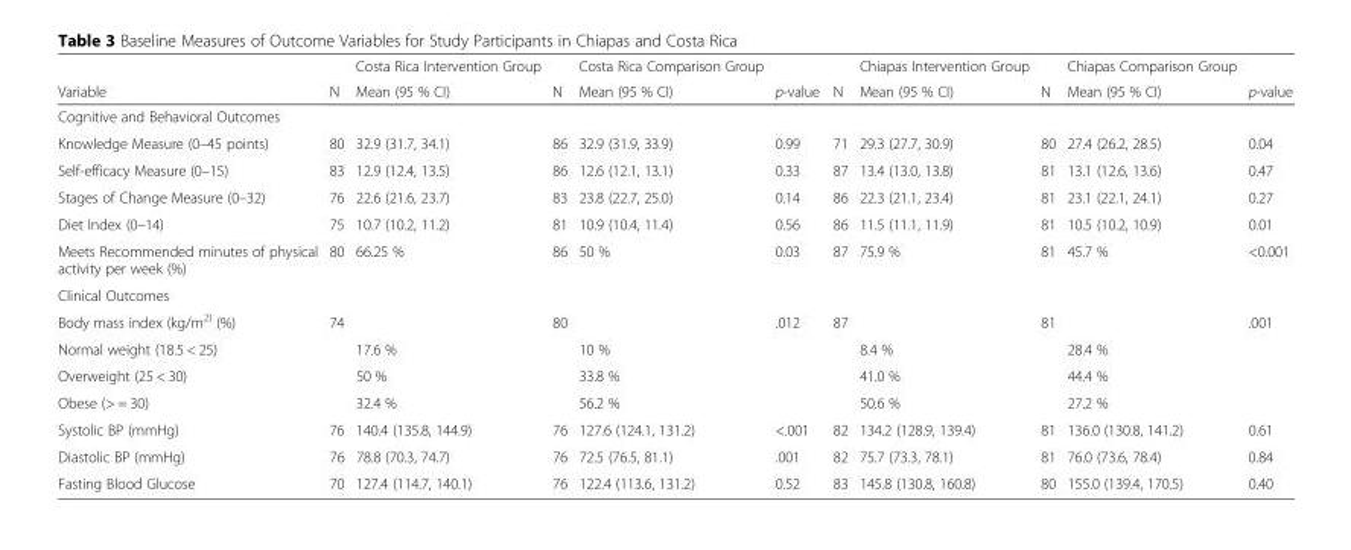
<table><thead><tr><td rowspan="2">Variable</td><td rowspan="2">N</td><td rowspan="2">Costa Rica Intervention Group Mean (95 % CI)</td><td rowspan="2">N</td><td rowspan="2">Costa Rica Comparison Group Mean (95 % CI)</td><td rowspan="2">p-value</td><td rowspan="2">N</td><td rowspan="2">Chiapas Intervention Group Mean (95 % CI)</td><td rowspan="2">N</td><td rowspan="2">Chiapas Comparison Group Mean (95 % CI)</td><td rowspan="2">p-value</td></tr><tr></tr></thead><tbody><tr><td colspan="11">Cognitive and Behavioral Outcomes</td></tr><tr><td>Knowledge Measure (0–45 points)</td><td>80</td><td>32.9 (31.7, 34.1)</td><td>86</td><td>32.9 (31.9, 33.9)</td><td>0.99</td><td>71</td><td>29.3 (27.7, 30.9)</td><td>80</td><td>27.4 (26.2, 28.5)</td><td>0.04</td></tr><tr><td>Self-efficacy Measure (0–15)</td><td>83</td><td>12.9 (12.4, 13.5)</td><td>86</td><td>12.6 (12.1, 13.1)</td><td>0.33</td><td>87</td><td>13.4 (13.0, 13.8)</td><td>81</td><td>13.1 (12.6, 13.6)</td><td>0.47</td></tr><tr><td>Stages of Change Measure (0–32)</td><td>76</td><td>22.6 (21.6, 23.7)</td><td>83</td><td>23.8 (22.7, 25.0)</td><td>0.14</td><td>86</td><td>22.3 (21.1, 23.4)</td><td>81</td><td>23.1 (22.1, 24.1)</td><td>0.27</td></tr><tr><td>Diet Index (0–14)</td><td>75</td><td>10.7 (10.2, 11.2)</td><td>81</td><td>10.9 (10.4, 11.4)</td><td>0.56</td><td>86</td><td>11.5 (11.1, 11.9)</td><td>81</td><td>10.5 (10.2, 10.9)</td><td>0.01</td></tr><tr><td>Meets Recommended minutes of physical activity per week (%)</td><td>80</td><td>66.25 %</td><td>86</td><td>50 %</td><td>0.03</td><td>87</td><td>75.9 %</td><td>81</td><td>45.7 %</td><td>&lt;0.001</td></tr><tr><td colspan="11">Clinical Outcomes</td></tr><tr><td>Body mass index (kg/m<sup>2)</sup> (%)</td><td>74</td><td></td><td>80</td><td></td><td>.012</td><td>87</td><td></td><td>81</td><td></td><td>.001</td></tr><tr><td>Normal weight (18.5 &lt; 25)</td><td></td><td>17.6 %</td><td></td><td>10 %</td><td></td><td></td><td>8.4 %</td><td></td><td>28.4 %</td><td></td></tr><tr><td>Overweight (25 &lt; 30)</td><td></td><td>50 %</td><td></td><td>33.8 %</td><td></td><td></td><td>41.0 %</td><td></td><td>44.4 %</td><td></td></tr><tr><td>Obese (&gt; = 30)</td><td></td><td>32.4 %</td><td></td><td>56.2 %</td><td></td><td></td><td>50.6 %</td><td></td><td>27.2 %</td><td></td></tr><tr><td>Systolic BP (mmHg)</td><td>76</td><td>140.4 (135.8, 144.9)</td><td>76</td><td>127.6 (124.1, 131.2)</td><td>&lt;.001</td><td>82</td><td>134.2 (128.9, 139.4)</td><td>81</td><td>136.0 (130.8, 141.2)</td><td>0.61</td></tr><tr><td>Diastolic BP (mmHg)</td><td>76</td><td>78.8 (70.3, 74.7)</td><td>76</td><td>72.5 (76.5, 81.1)</td><td>.001</td><td>82</td><td>75.7 (73.3, 78.1)</td><td>81</td><td>76.0 (73.6, 78.4)</td><td>0.84</td></tr><tr><td>Fasting Blood Glucose</td><td>70</td><td>127.4 (114.7, 140.1)</td><td>76</td><td>122.4 (113.6, 131.2)</td><td>0.52</td><td>83</td><td>145.8 (130.8, 160.8)</td><td>80</td><td>155.0 (139.4, 170.5)</td><td>0.40</td></tr></tbody></table>